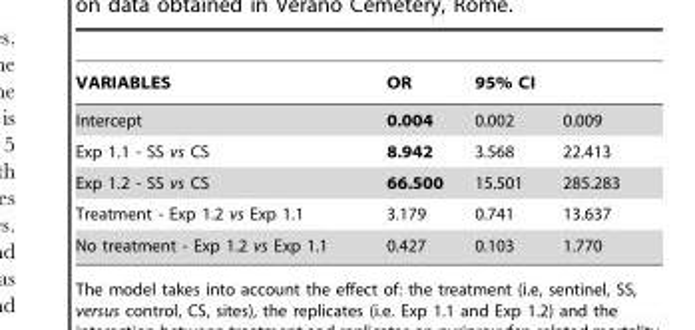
<table><thead><tr><td rowspan="2">VARIABLES Intercept</td><td rowspan="2">OR 0.004</td><td colspan="2">95% CI</td></tr><tr><td>0.002</td><td>0.009</td></tr></thead><tbody><tr><td>Exp 1.1 - SS vs CS</td><td>8.942</td><td>3.568</td><td>22.413</td></tr><tr><td>Exp 1.2 - SS vs CS</td><td>66.500</td><td>15.501</td><td>285.283</td></tr><tr><td>Treatment - Exp 1.2 vs Exp 1.1</td><td>3.179</td><td>0.741</td><td>13.637</td></tr><tr><td>No treatment - Exp 1.2 vs Exp 1.1</td><td>0.427</td><td>0.103</td><td>1.770</td></tr></tbody></table>